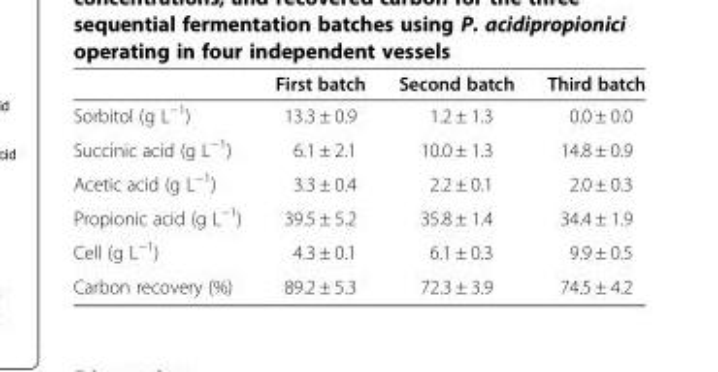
<table><thead><tr><td></td><td>First batch</td><td>Second batch</td><td>Third batch</td></tr></thead><tbody><tr><td>Sorbitol (g L<sup>−1</sup>)</td><td>13.3 ± 0.9</td><td>1.2 ± 1.3</td><td>0.0 ± 0.0</td></tr><tr><td>Succinic acid (g L<sup>−1</sup>)</td><td>6.1 ± 2.1</td><td>10.0 ± 1.3</td><td>14.8 ± 0.9</td></tr><tr><td>Acetic acid (g L<sup>−1</sup>)</td><td>3.3 ± 0.4</td><td>2.2 ± 0.1</td><td>2.0 ± 0.3</td></tr><tr><td>Propionic acid (g L<sup>−1</sup>)</td><td>39.5 ± 5.2</td><td>35.8 ± 1.4</td><td>34.4 ± 1.9</td></tr><tr><td>Cell (g L<sup>−1</sup>)</td><td>4.3 ± 0.1</td><td>6.1 ± 0.3</td><td>9.9 ± 0.5</td></tr><tr><td>Carbon recovery (%)</td><td>89.2 ± 5.3</td><td>72.3 ± 3.9</td><td>74.5 ± 4.2</td></tr></tbody></table>